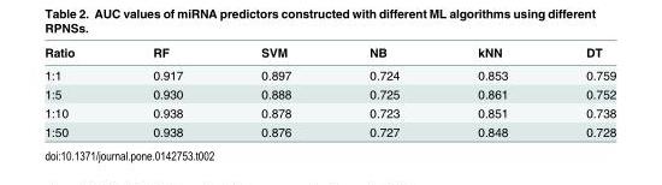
<table><thead><tr><td>Ratio</td><td>RF</td><td>SVM</td><td>NB</td><td>kNN</td><td>DT</td></tr></thead><tbody><tr><td>1:1</td><td>0.917</td><td>0.897</td><td>0.724</td><td>0.853</td><td>0.759</td></tr><tr><td>1:5</td><td>0.930</td><td>0.888</td><td>0.725</td><td>0.861</td><td>0.752</td></tr><tr><td>1:10</td><td>0.938</td><td>0.878</td><td>0.723</td><td>0.851</td><td>0.738</td></tr><tr><td>1:50</td><td>0.938</td><td>0.876</td><td>0.727</td><td>0.848</td><td>0.728</td></tr></tbody></table>